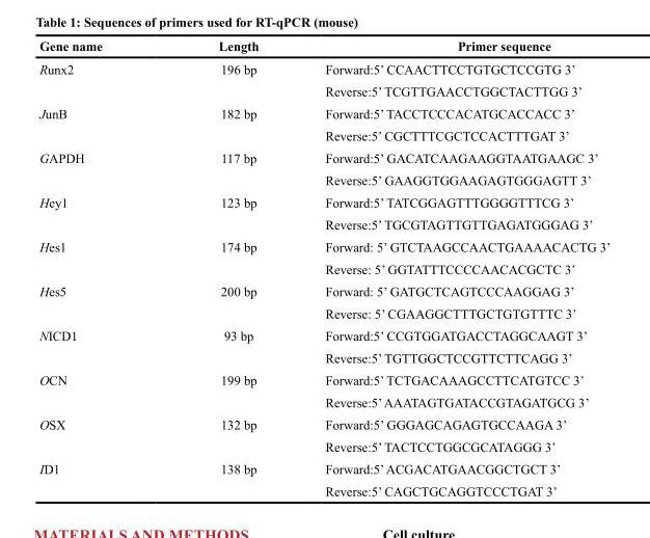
<table><thead><tr><td>Gene name</td><td>Length</td><td>Primer sequence</td></tr></thead><tbody><tr><td rowspan="2">Runx2</td><td>196 bp</td><td>Forward:5’ CCAACTTCCTGTGCTCCGTG 3’</td></tr><tr><td></td><td>Reverse:5’ TCGTTGAACCTGGCTACTTGG 3’</td></tr><tr><td rowspan="2">JunB</td><td>182 bp</td><td>Forward:5’ TACCTCCCACATGCACCACC 3’</td></tr><tr><td></td><td>Reverse:5’ CGCTTTCGCTCCACTTTGAT 3’</td></tr><tr><td rowspan="2">GAPDH</td><td>117 bp</td><td>Forward:5’ GACATCAAGAAGGTAATGAAGC 3’</td></tr><tr><td></td><td>Reverse:5’ GAAGGTGGAAGAGTGGGAGTT 3’</td></tr><tr><td rowspan="2">Hey1</td><td>123 bp</td><td>Forward:5’ TATCGGAGTTTGGGGTTTCG 3’</td></tr><tr><td></td><td>Reverse:5’ TGCGTAGTTGTTGAGATGGGAG 3’</td></tr><tr><td rowspan="2">Hes1</td><td>174 bp</td><td>Forward: 5’ GTCTAAGCCAACTGAAAACACTG 3’</td></tr><tr><td></td><td>Reverse: 5’ GGTATTTCCCCAACACGCTC 3’</td></tr><tr><td rowspan="2">Hes5</td><td>200 bp</td><td>Forward: 5’ GATGCTCAGTCCCAAGGAG 3’</td></tr><tr><td></td><td>Reverse: 5’ CGAAGGCTTTGCTGTGTTTC 3’</td></tr><tr><td rowspan="2">NICD1</td><td>93 bp</td><td>Forward:5’ CCGTGGATGACCTAGGCAAGT 3’</td></tr><tr><td></td><td>Reverse:5’ TGTTGGCTCCGTTCTTCAGG 3’</td></tr><tr><td rowspan="2">OCN</td><td>199 bp</td><td>Forward:5’ TCTGACAAAGCCTTCATGTCC 3’</td></tr><tr><td></td><td>Reverse:5’ AAATAGTGATACCGTAGATGCG 3’</td></tr><tr><td rowspan="2">OSX</td><td>132 bp</td><td>Forward:5’ GGGAGCAGAGTGCCAAGA 3’</td></tr><tr><td></td><td>Reverse:5’ TACTCCTGGCGCATAGGG 3’</td></tr><tr><td rowspan="2">ID1</td><td>138 bp</td><td>Forward:5’ ACGACATGAACGGCTGCT 3’</td></tr><tr><td></td><td>Reverse:5’ CAGCTGCAGGTCCCTGAT 3’</td></tr></tbody></table>